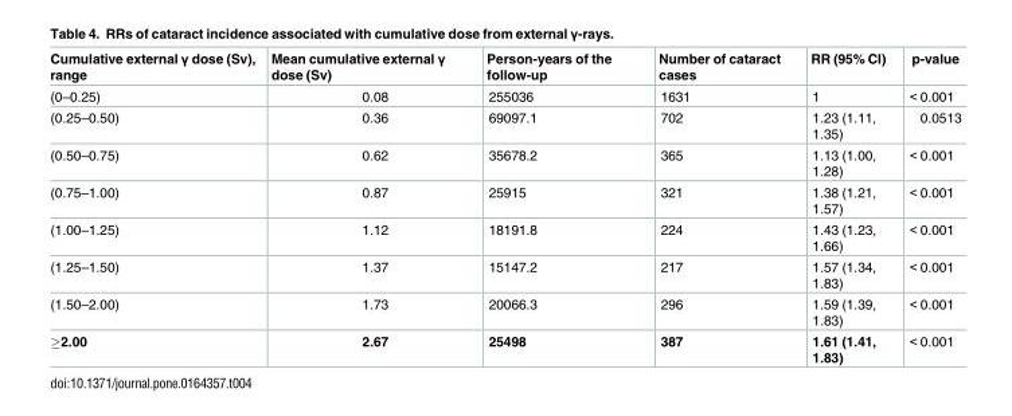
<table><thead><tr><td>Cumulative external γ dose (Sv), range</td><td>Mean cumulative external γ dose (Sv)</td><td>Person-years of the follow-up</td><td>Number of cataract cases</td><td>RR (95% CI)</td><td>p-value</td></tr></thead><tbody><tr><td>(0–0.25)</td><td>0.08</td><td>255036</td><td>1631</td><td>1</td><td>&lt; 0.001</td></tr><tr><td>(0.25–0.50)</td><td>0.36</td><td>69097.1</td><td>702</td><td>1.23 (1.11, 1.35)</td><td>0.0513</td></tr><tr><td>(0.50–0.75)</td><td>0.62</td><td>35678.2</td><td>365</td><td>1.13 (1.00, 1.28)</td><td>&lt; 0.001</td></tr><tr><td>(0.75–1.00)</td><td>0.87</td><td>25915</td><td>321</td><td>1.38 (1.21, 1.57)</td><td>&lt; 0.001</td></tr><tr><td>(1.00–1.25)</td><td>1.12</td><td>18191.8</td><td>224</td><td>1.43 (1.23, 1.66)</td><td>&lt; 0.001</td></tr><tr><td>(1.25–1.50)</td><td>1.37</td><td>15147.2</td><td>217</td><td>1.57 (1.34, 1.83)</td><td>&lt; 0.001</td></tr><tr><td>(1.50–2.00)</td><td>1.73</td><td>20066.3</td><td>296</td><td>1.59 (1.39, 1.83)</td><td>&lt; 0.001</td></tr><tr><td>≥2.00</td><td>2.67</td><td>25498</td><td>387</td><td>1.61 (1.41, 1.83)</td><td>&lt; 0.001</td></tr></tbody></table>